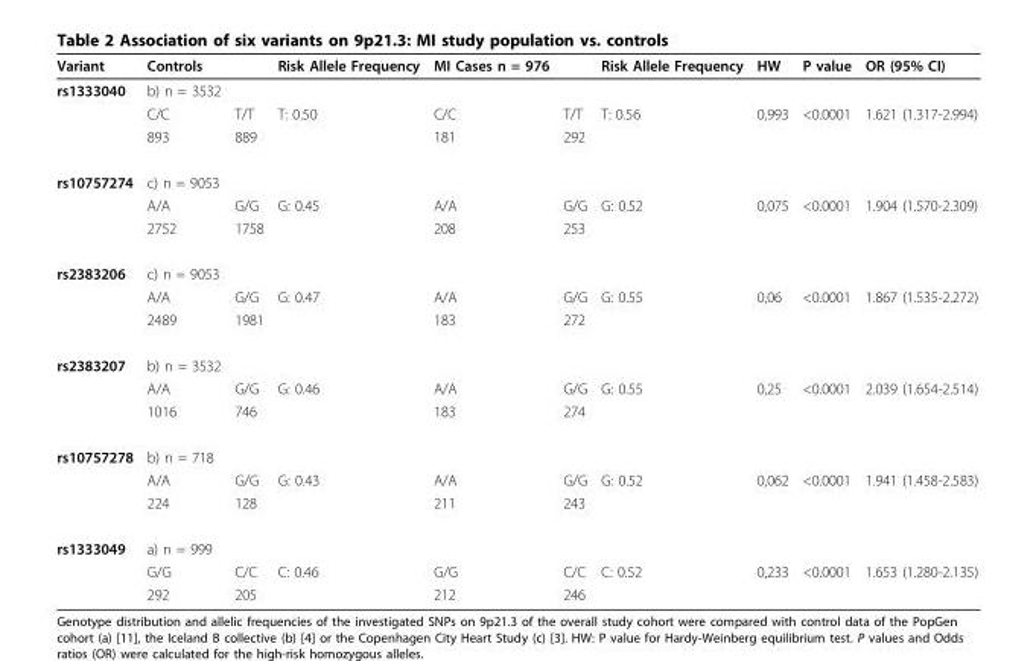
<table><thead><tr><td>Variant</td><td>Controls</td><td></td><td>Risk Allele Frequency</td><td>MI Cases n = 976</td><td></td><td>Risk Allele Frequency</td><td>HW</td><td>P value</td><td>OR (95% CI)</td></tr></thead><tbody><tr><td rowspan="3">rs1333040</td><td>b) n = 3532</td><td></td><td></td><td></td><td></td><td></td><td></td><td></td><td></td></tr><tr><td>C/C</td><td>T/T</td><td>T: 0.50</td><td>C/C</td><td>T/T</td><td>T: 0.56</td><td>0,993</td><td>&lt;0.0001</td><td>1.621 (1.317-2.994)</td></tr><tr><td>893</td><td>889</td><td></td><td>181</td><td>292</td><td></td><td></td><td></td><td></td></tr><tr><td rowspan="3">rs10757274</td><td>c) n = 9053</td><td></td><td></td><td></td><td></td><td></td><td></td><td></td><td></td></tr><tr><td>A/A</td><td>G/G</td><td>G: 0.45</td><td>A/A</td><td>G/G</td><td>G: 0.52</td><td>0,075</td><td>&lt;0.0001</td><td>1.904 (1.570-2.309)</td></tr><tr><td>2752</td><td>1758</td><td></td><td>208</td><td>253</td><td></td><td></td><td></td><td></td></tr><tr><td rowspan="3">rs2383206</td><td>c) n = 9053</td><td></td><td></td><td></td><td></td><td></td><td></td><td></td><td></td></tr><tr><td>A/A</td><td>G/G</td><td>G: 0.47</td><td>A/A</td><td>G/G</td><td>G: 0.55</td><td>0,06</td><td>&lt;0.0001</td><td>1.867 (1.535-2.272)</td></tr><tr><td>2489</td><td>1981</td><td></td><td>183</td><td>272</td><td></td><td></td><td></td><td></td></tr><tr><td rowspan="3">rs2383207</td><td>b) n = 3532</td><td></td><td></td><td></td><td></td><td></td><td></td><td></td><td></td></tr><tr><td>A/A</td><td>G/G</td><td>G: 0.46</td><td>A/A</td><td>G/G</td><td>G: 0.55</td><td>0,25</td><td>&lt;0.0001</td><td>2.039 (1.654-2.514)</td></tr><tr><td>1016</td><td>746</td><td></td><td>183</td><td>274</td><td></td><td></td><td></td><td></td></tr><tr><td rowspan="3">rs10757278</td><td>b) n = 718</td><td></td><td></td><td></td><td></td><td></td><td></td><td></td><td></td></tr><tr><td>A/A</td><td>G/G</td><td>G: 0.43</td><td>A/A</td><td>G/G</td><td>G: 0.52</td><td>0,062</td><td>&lt;0.0001</td><td>1.941 (1.458-2.583)</td></tr><tr><td>224</td><td>128</td><td></td><td>211</td><td>243</td><td></td><td></td><td></td><td></td></tr><tr><td rowspan="3">rs1333049</td><td>a) n = 999</td><td></td><td></td><td></td><td></td><td></td><td></td><td></td><td></td></tr><tr><td>G/G</td><td>C/C</td><td>C: 0.46</td><td>G/G</td><td>C/C</td><td>C: 0.52</td><td>0,233</td><td>&lt;0.0001</td><td>1.653 (1.280-2.135)</td></tr><tr><td>292</td><td>205</td><td></td><td>212</td><td>246</td><td></td><td></td><td></td><td></td></tr></tbody></table>